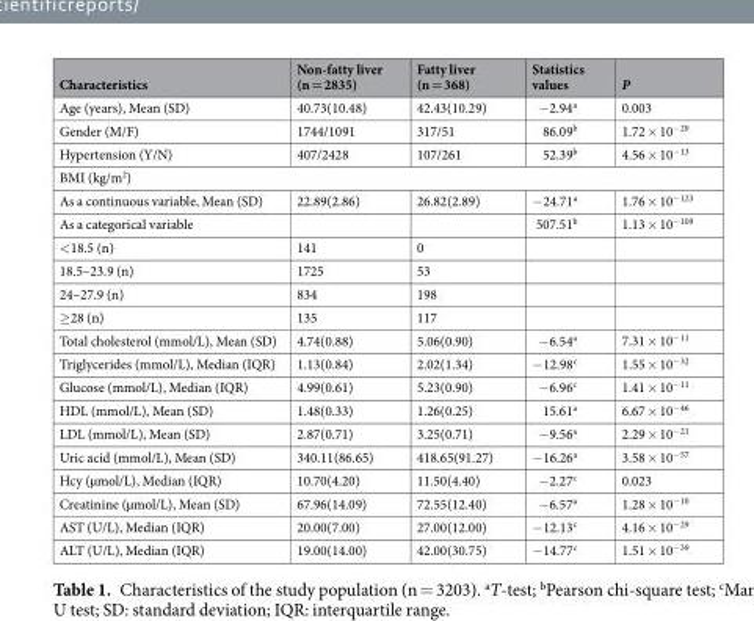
<table><thead><tr><td>Characteristics</td><td>Non-fatty liver (n = 2835)</td><td>Fatty liver (n = 368)</td><td>Statistics values</td><td>P</td></tr></thead><tbody><tr><td>Age (years), Mean (SD)</td><td>40.73(10.48)</td><td>42.43(10.29)</td><td>−2.94<sup>a</sup></td><td>0.003</td></tr><tr><td>Gender (M/F)</td><td>1744/1091</td><td>317/51</td><td>86.09<sup>b</sup></td><td>1.72 × 10<sup>−20</sup></td></tr><tr><td>Hypertension (Y/N)</td><td>407/2428</td><td>107/261</td><td>52.39<sup>b</sup></td><td>4.56 × 10<sup>−13</sup></td></tr><tr><td colspan="5">BMI (kg/m<sup>2</sup>)</td></tr><tr><td>As a continuous variable, Mean (SD)</td><td>22.89(2.86)</td><td>26.82(2.89)</td><td>−24.71<sup>a</sup></td><td>1.76 × 10<sup>−123</sup></td></tr><tr><td>As a categorical variable</td><td></td><td></td><td>507.51<sup>b</sup></td><td>1.13 × 10<sup>−109</sup></td></tr><tr><td>&lt;18.5 (n)</td><td>141</td><td>0</td><td></td><td></td></tr><tr><td>18.5–23.9 (n)</td><td>1725</td><td>53</td><td></td><td></td></tr><tr><td>24–27.9 (n)</td><td>834</td><td>198</td><td></td><td></td></tr><tr><td>≥28 (n)</td><td>135</td><td>117</td><td></td><td></td></tr><tr><td>Total cholesterol (mmol/L), Mean (SD)</td><td>4.74(0.88)</td><td>5.06(0.90)</td><td>−6.54<sup>a</sup></td><td>7.31 × 10<sup>−11</sup></td></tr><tr><td>Triglycerides (mmol/L), Median (IQR)</td><td>1.13(0.84)</td><td>2.02(1.34)</td><td>−12.98<sup>c</sup></td><td>1.55 × 10<sup>−32</sup></td></tr><tr><td>Glucose (mmol/L), Median (IQR)</td><td>4.99(0.61)</td><td>5.23(0.90)</td><td>−6.96<sup>c</sup></td><td>1.41 × 10<sup>−11</sup></td></tr><tr><td>HDL (mmol/L), Mean (SD)</td><td>1.48(0.33)</td><td>1.26(0.25)</td><td>15.61<sup>a</sup></td><td>6.67 × 10<sup>−46</sup></td></tr><tr><td>LDL (mmol/L), Mean (SD)</td><td>2.87(0.71)</td><td>3.25(0.71)</td><td>−9.56<sup>a</sup></td><td>2.29 × 10<sup>−21</sup></td></tr><tr><td>Uric acid (mmol/L), Mean (SD)</td><td>340.11(86.65)</td><td>418.65(91.27)</td><td>−16.26<sup>a</sup></td><td>3.58 × 10<sup>−57</sup></td></tr><tr><td>Hcy (µmol/L), Median (IQR)</td><td>10.70(4.20)</td><td>11.50(4.40)</td><td>−2.27<sup>c</sup></td><td>0.023</td></tr><tr><td>Creatinine (µmol/L), Mean (SD)</td><td>67.96(14.09)</td><td>72.55(12.40)</td><td>−6.57<sup>a</sup></td><td>1.28 × 10<sup>−10</sup></td></tr><tr><td>AST (U/L), Median (IQR)</td><td>20.00(7.00)</td><td>27.00(12.00)</td><td>−12.13<sup>c</sup></td><td>4.16 × 10<sup>−29</sup></td></tr><tr><td>ALT (U/L), Median (IQR)</td><td>19.00(14.00)</td><td>42.00(30.75)</td><td>−14.77<sup>c</sup></td><td>1.51 × 10<sup>−39</sup></td></tr></tbody></table>